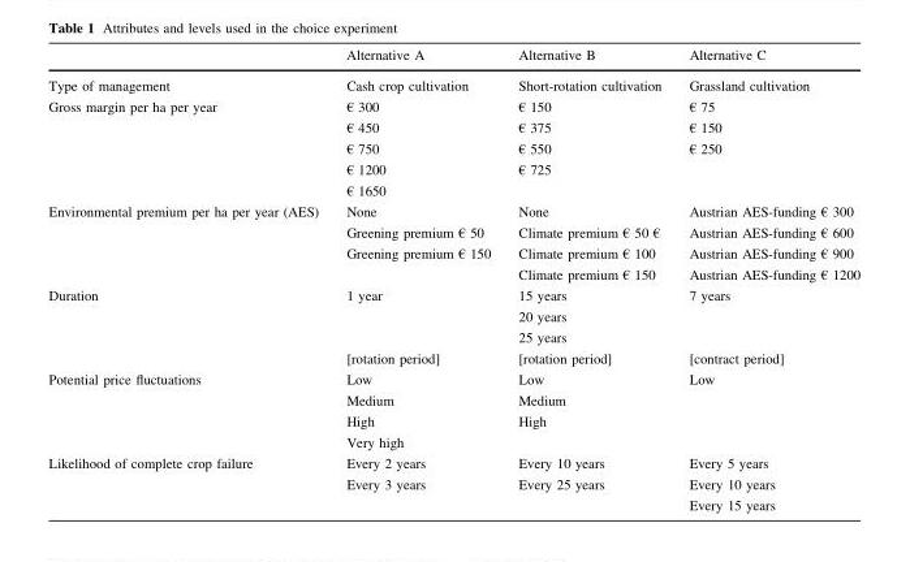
<table><thead><tr><td></td><td>Alternative A</td><td>Alternative B</td><td>Alternative C</td></tr></thead><tbody><tr><td>Type of management</td><td>Cash crop cultivation</td><td>Short-rotation cultivation</td><td>Grassland cultivation</td></tr><tr><td>Gross margin per ha per year</td><td>€ 300 € 450 € 750 € 1200 € 1650</td><td>€ 150 € 375 € 550 € 725</td><td>€ 75 € 150 € 250</td></tr><tr><td rowspan="4">Environmental premium per ha per year (AES)</td><td>None</td><td>None</td><td>Austrian AES-funding € 300</td></tr><tr><td>Greening premium € 50</td><td>Climate premium € 50 €</td><td>Austrian AES-funding € 600</td></tr><tr><td>Greening premium € 150</td><td>Climate premium € 100</td><td>Austrian AES-funding € 900</td></tr><tr><td></td><td>Climate premium € 150</td><td>Austrian AES-funding € 1200</td></tr><tr><td rowspan="3">Duration</td><td>1 year</td><td>15 years</td><td>7 years</td></tr><tr><td></td><td>20 years 25 years</td><td></td></tr><tr><td>[rotation period]</td><td>[rotation period]</td><td>[contract period]</td></tr><tr><td rowspan="4">Potential price fluctuations</td><td>Low</td><td>Low</td><td>Low</td></tr><tr><td>Medium</td><td>Medium</td><td></td></tr><tr><td>High</td><td>High</td><td></td></tr><tr><td>Very high</td><td></td><td></td></tr><tr><td rowspan="3">Likelihood of complete crop failure</td><td>Every 2 years</td><td>Every 10 years</td><td>Every 5 years</td></tr><tr><td>Every 3 years</td><td>Every 25 years</td><td>Every 10 years</td></tr><tr><td></td><td></td><td>Every 15 years</td></tr></tbody></table>